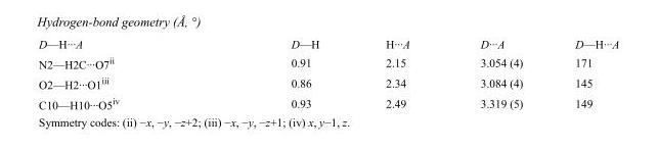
<table><tbody><tr><td>D—H···A</td><td>D—H</td><td>H···A</td><td>D···A</td><td>D—H···A</td></tr><tr><td>N2—H2C···O7<sup>ii</sup></td><td>0.91</td><td>2.15</td><td>3.054 (4)</td><td>171</td></tr><tr><td>O2—H2···O1<sup>iii</sup></td><td>0.86</td><td>2.34</td><td>3.084 (4)</td><td>145</td></tr><tr><td>C10—H10···O5<sup>iv</sup></td><td>0.93</td><td>2.49</td><td>3.319 (5)</td><td>149</td></tr></tbody></table>